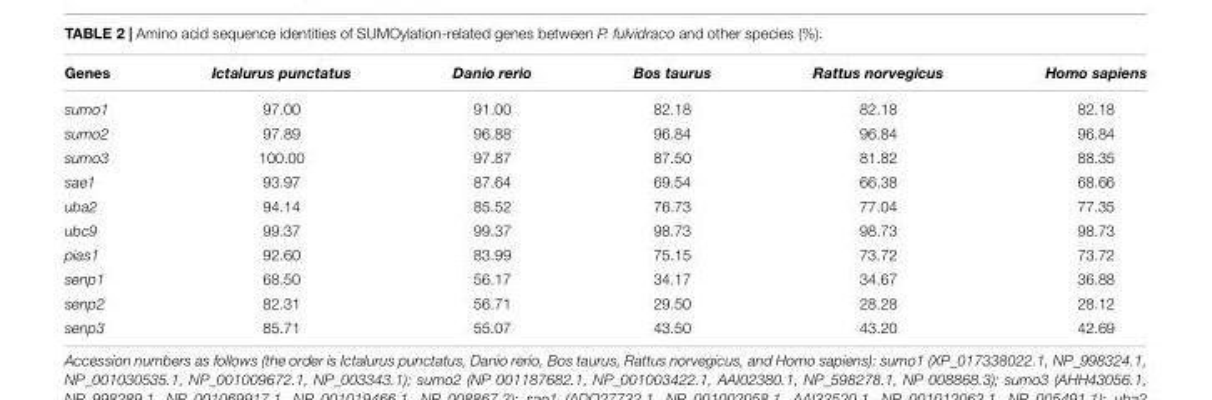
<table><thead><tr><td>Genes</td><td>Ictalurus punctatus</td><td>Danio rerio</td><td>Bos taurus</td><td>Rattus norvegicus</td><td>Homo sapiens</td></tr></thead><tbody><tr><td>sumo1</td><td>97.00</td><td>91.00</td><td>82.18</td><td>82.18</td><td>82.18</td></tr><tr><td>sumo2</td><td>97.89</td><td>96.88</td><td>96.84</td><td>96.84</td><td>96.84</td></tr><tr><td>sumo3</td><td>100.00</td><td>97.87</td><td>87.50</td><td>81.82</td><td>88.35</td></tr><tr><td>sae1</td><td>93.97</td><td>87.64</td><td>69.54</td><td>66.38</td><td>68.66</td></tr><tr><td>uba2</td><td>94.14</td><td>85.52</td><td>76.73</td><td>77.04</td><td>77.35</td></tr><tr><td>ubc9</td><td>99.37</td><td>99.37</td><td>98.73</td><td>98.73</td><td>98.73</td></tr><tr><td>pias1</td><td>92.60</td><td>83.99</td><td>75.15</td><td>73.72</td><td>73.72</td></tr><tr><td>senp1</td><td>68.50</td><td>56.17</td><td>34.17</td><td>34.67</td><td>36.88</td></tr><tr><td>senp2</td><td>82.31</td><td>56.71</td><td>29.50</td><td>28.28</td><td>28.12</td></tr><tr><td>senp3</td><td>85.71</td><td>55.07</td><td>43.50</td><td>43.20</td><td>42.69</td></tr></tbody></table>